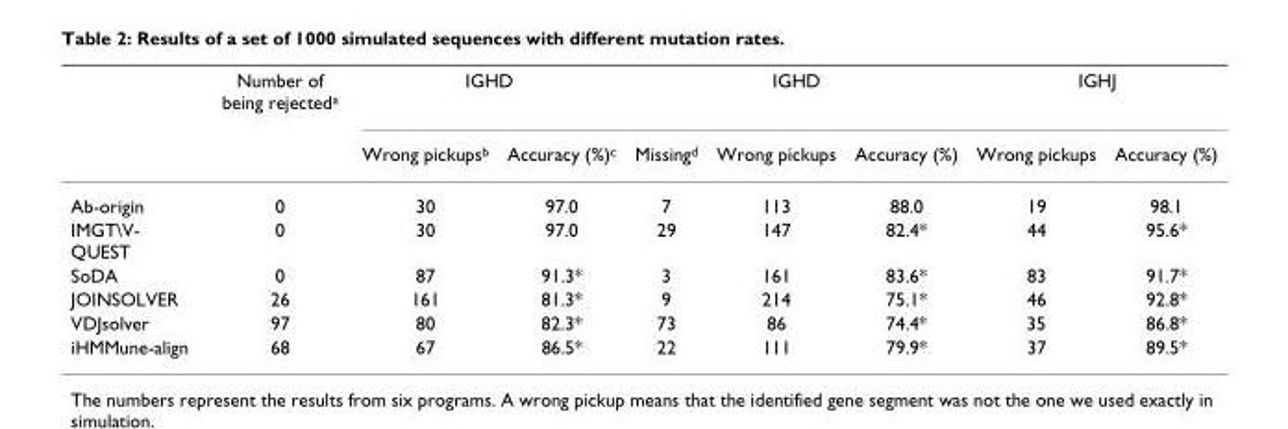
<table><thead><tr><td rowspan="2"></td><td rowspan="2">Number of being rejected<sup>a</sup></td><td colspan="2">IGHD</td><td colspan="3">IGHD</td><td colspan="2">IGHJ</td></tr><tr><td>Wrong pickups<sup>b</sup></td><td>Accuracy (%)<sup>c</sup></td><td>Missing<sup>d</sup></td><td>Wrong pickups</td><td>Accuracy (%)</td><td>Wrong pickups</td><td>Accuracy (%)</td></tr></thead><tbody><tr><td>Ab-origin</td><td>0</td><td>30</td><td>97.0</td><td>7</td><td>113</td><td>88.0</td><td>19</td><td>98.1</td></tr><tr><td>IMGT\V- QUEST</td><td>0</td><td>30</td><td>97.0</td><td>29</td><td>147</td><td>82.4*</td><td>44</td><td>95.6*</td></tr><tr><td>SoDA</td><td>0</td><td>87</td><td>91.3*</td><td>3</td><td>161</td><td>83.6*</td><td>83</td><td>91.7*</td></tr><tr><td>JOINSOLVER</td><td>26</td><td>161</td><td>81.3*</td><td>9</td><td>214</td><td>75.1*</td><td>46</td><td>92.8*</td></tr><tr><td>VDJsolver</td><td>97</td><td>80</td><td>82.3*</td><td>73</td><td>86</td><td>74.4*</td><td>35</td><td>86.8*</td></tr><tr><td>iHMMune-align</td><td>68</td><td>67</td><td>86.5*</td><td>22</td><td>111</td><td>79.9*</td><td>37</td><td>89.5*</td></tr></tbody></table>